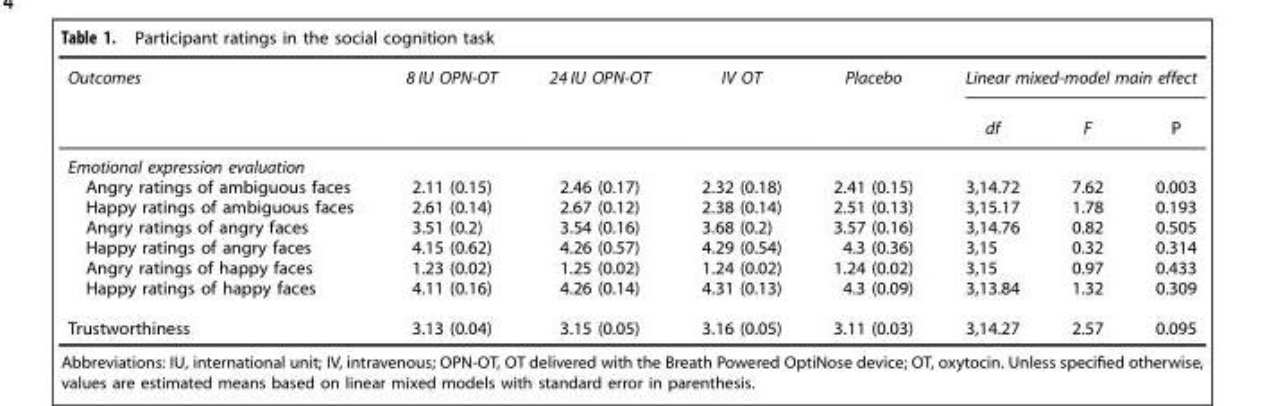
<table><thead><tr><td rowspan="2">Outcomes</td><td rowspan="2">8 IU OPN-OT</td><td rowspan="2">24 IU OPN-OT</td><td rowspan="2">IV OT</td><td rowspan="2">Placebo</td><td colspan="3">Linear mixed-model main effect</td></tr><tr><td>df</td><td>F</td><td>P</td></tr></thead><tbody><tr><td colspan="8">Emotional expression evaluation</td></tr><tr><td>Angry ratings of ambiguous faces</td><td>2.11 (0.15)</td><td>2.46 (0.17)</td><td>2.32 (0.18)</td><td>2.41 (0.15)</td><td>3,14.72</td><td>7.62</td><td>0.003</td></tr><tr><td>Happy ratings of ambiguous faces</td><td>2.61 (0.14)</td><td>2.67 (0.12)</td><td>2.38 (0.14)</td><td>2.51 (0.13)</td><td>3,15.17</td><td>1.78</td><td>0.193</td></tr><tr><td>Angry ratings of angry faces</td><td>3.51 (0.2)</td><td>3.54 (0.16)</td><td>3.68 (0.2)</td><td>3.57 (0.16)</td><td>3,14.76</td><td>0.82</td><td>0.505</td></tr><tr><td>Happy ratings of angry faces</td><td>4.15 (0.62)</td><td>4.26 (0.57)</td><td>4.29 (0.54)</td><td>4.3 (0.36)</td><td>3,15</td><td>0.32</td><td>0.314</td></tr><tr><td>Angry ratings of happy faces</td><td>1.23 (0.02)</td><td>1.25 (0.02)</td><td>1.24 (0.02)</td><td>1.24 (0.02)</td><td>3,15</td><td>0.97</td><td>0.433</td></tr><tr><td>Happy ratings of happy faces</td><td>4.11 (0.16)</td><td>4.26 (0.14)</td><td>4.31 (0.13)</td><td>4.3 (0.09)</td><td>3,13.84</td><td>1.32</td><td>0.309</td></tr><tr><td>Trustworthiness</td><td>3.13 (0.04)</td><td>3.15 (0.05)</td><td>3.16 (0.05)</td><td>3.11 (0.03)</td><td>3,14.27</td><td>2.57</td><td>0.095</td></tr></tbody></table>